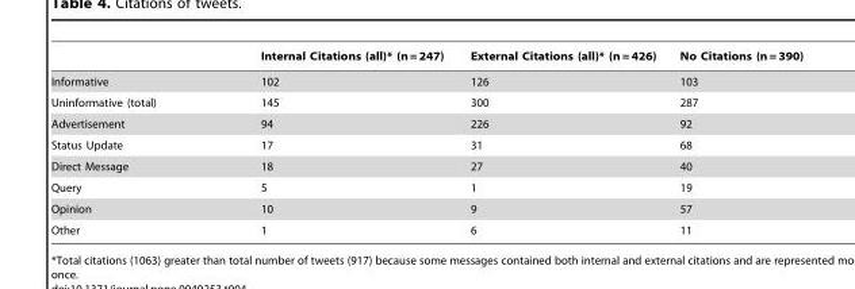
<table><thead><tr><td></td><td>Internal Citations (all)* (n = 247)</td><td>External Citations (all)* (n = 426)</td><td>No Citations (n = 390)</td></tr></thead><tbody><tr><td>Informative</td><td>102</td><td>126</td><td>103</td></tr><tr><td>Uninformative (total)</td><td>145</td><td>300</td><td>287</td></tr><tr><td>Advertisement</td><td>94</td><td>226</td><td>92</td></tr><tr><td>Status Update</td><td>17</td><td>31</td><td>68</td></tr><tr><td>Direct Message</td><td>18</td><td>27</td><td>40</td></tr><tr><td>Query</td><td>5</td><td>1</td><td>19</td></tr><tr><td>Opinion</td><td>10</td><td>9</td><td>57</td></tr><tr><td>Other</td><td>1</td><td>6</td><td>11</td></tr></tbody></table>